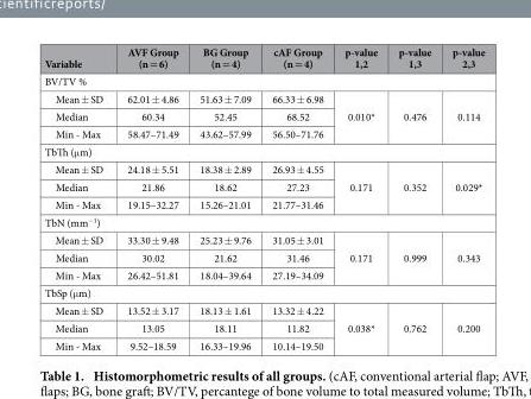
<table><thead><tr><td>Variable</td><td>AVF Group (n = 6)</td><td>BG Group (n = 4)</td><td>cAF Group (n = 4)</td><td>p-value 1,2</td><td>p-value 1,3</td><td>p-value 2,3</td></tr></thead><tbody><tr><td colspan="7">BV/TV %</td></tr><tr><td>Mean ± SD</td><td>62.01 ± 4.86</td><td>51.63 ± 7.09</td><td>66.33 ± 6.98</td><td rowspan="3">0.010*</td><td rowspan="3">0.476</td><td rowspan="3">0.114</td></tr><tr><td>Median</td><td>60.34</td><td>52.45</td><td>68.52</td></tr><tr><td>Min - Max</td><td>58.47–71.49</td><td>43.62–57.99</td><td>56.50–71.76</td></tr><tr><td colspan="7">TbTh (μm)</td></tr><tr><td>Mean ± SD</td><td>24.18 ± 5.51</td><td>18.38 ± 2.89</td><td>26.93 ± 4.55</td><td rowspan="3">0.171</td><td rowspan="3">0.352</td><td rowspan="3">0.029*</td></tr><tr><td>Median</td><td>21.86</td><td>18.62</td><td>27.23</td></tr><tr><td>Min - Max</td><td>19.15–32.27</td><td>15.26–21.01</td><td>21.77–31.46</td></tr><tr><td colspan="7">TbN (mm<sup>−1</sup>)</td></tr><tr><td>Mean ± SD</td><td>33.30 ± 9.48</td><td>25.23 ± 9.76</td><td>31.05 ± 3.01</td><td rowspan="3">0.171</td><td rowspan="3">0.999</td><td rowspan="3">0.343</td></tr><tr><td>Median</td><td>30.02</td><td>21.62</td><td>31.46</td></tr><tr><td>Min - Max</td><td>26.42–51.81</td><td>18.04–39.64</td><td>27.19–34.09</td></tr><tr><td colspan="7">TbSp (μm)</td></tr><tr><td>Mean ± SD</td><td>13.52 ± 3.17</td><td>18.13 ± 1.61</td><td>13.32 ± 4.22</td><td rowspan="3">0.038*</td><td rowspan="3">0.762</td><td rowspan="3">0.200</td></tr><tr><td>Median</td><td>13.05</td><td>18.11</td><td>11.82</td></tr><tr><td>Min - Max</td><td>9.52–18.59</td><td>16.33–19.96</td><td>10.14–19.50</td></tr></tbody></table>